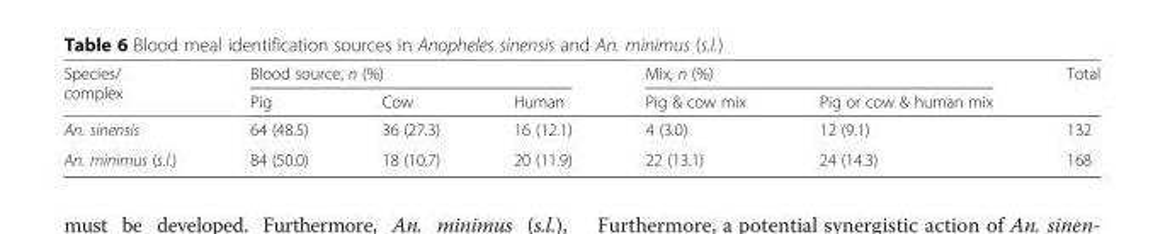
<table><thead><tr><td rowspan="2">Species/ complex</td><td colspan="3">Blood source, n (%)</td><td colspan="2">Mix, n (%)</td><td rowspan="2">Total</td></tr><tr><td>Pig</td><td>Cow</td><td>Human</td><td>Pig &amp; cow mix</td><td>Pig or cow &amp; human mix</td></tr></thead><tbody><tr><td>An. sinensis</td><td>64 (48.5)</td><td>36 (27.3)</td><td>16 (12.1)</td><td>4 (3.0)</td><td>12 (9.1)</td><td>132</td></tr><tr><td>An. minimus (s.l.)</td><td>84 (50.0)</td><td>18 (10.7)</td><td>20 (11.9)</td><td>22 (13.1)</td><td>24 (14.3)</td><td>168</td></tr></tbody></table>